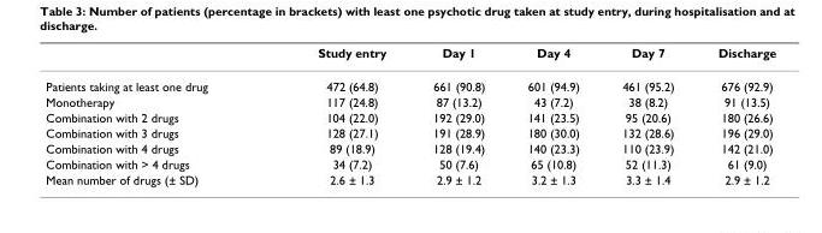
<table><thead><tr><td></td><td>Study entry</td><td>Day 1</td><td>Day 4</td><td>Day 7</td><td>Discharge</td></tr></thead><tbody><tr><td>Patients taking at least one drug</td><td>472 (64.8)</td><td>661 (90.8)</td><td>601 (94.9)</td><td>461 (95.2)</td><td>676 (92.9)</td></tr><tr><td>Monotherapy</td><td>117 (24.8)</td><td>87 (13.2)</td><td>43 (7.2)</td><td>38 (8.2)</td><td>91 (13.5)</td></tr><tr><td>Combination with 2 drugs</td><td>104 (22.0)</td><td>192 (29.0)</td><td>141 (23.5)</td><td>95 (20.6)</td><td>180 (26.6)</td></tr><tr><td>Combination with 3 drugs</td><td>128 (27.1)</td><td>191 (28.9)</td><td>180 (30.0)</td><td>132 (28.6)</td><td>196 (29.0)</td></tr><tr><td>Combination with 4 drugs</td><td>89 (18.9)</td><td>128 (19.4)</td><td>140 (23.3)</td><td>110 (23.9)</td><td>142 (21.0)</td></tr><tr><td>Combination with &gt; 4 drugs</td><td>34 (7.2)</td><td>50 (7.6)</td><td>65 (10.8)</td><td>52 (11.3)</td><td>61 (9.0)</td></tr><tr><td>Mean number of drugs (± SD)</td><td>2.6 ± 1.3</td><td>2.9 ± 1.2</td><td>3.2 ± 1.3</td><td>3.3 ± 1.4</td><td>2.9 ± 1.2</td></tr></tbody></table>